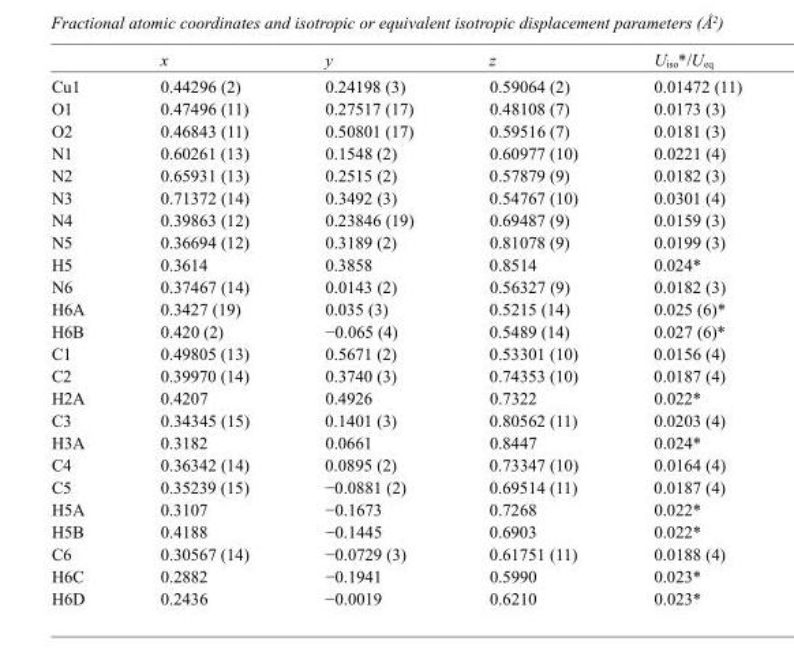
<table><thead><tr><td></td><td>x</td><td>y</td><td>z</td><td>U<sub>iso</sub>*/U<sub>eq</sub></td></tr></thead><tbody><tr><td>Cu1</td><td>0.44296 (2)</td><td>0.24198 (3)</td><td>0.59064 (2)</td><td>0.01472 (11)</td></tr><tr><td>O1</td><td>0.47496 (11)</td><td>0.27517 (17)</td><td>0.48108 (7)</td><td>0.0173 (3)</td></tr><tr><td>O2</td><td>0.46843 (11)</td><td>0.50801 (17)</td><td>0.59516 (7)</td><td>0.0181 (3)</td></tr><tr><td>N1</td><td>0.60261 (13)</td><td>0.1548 (2)</td><td>0.60977 (10)</td><td>0.0221 (4)</td></tr><tr><td>N2</td><td>0.65931 (13)</td><td>0.2515 (2)</td><td>0.57879 (9)</td><td>0.0182 (3)</td></tr><tr><td>N3</td><td>0.71372 (14)</td><td>0.3492 (3)</td><td>0.54767 (10)</td><td>0.0301 (4)</td></tr><tr><td>N4</td><td>0.39863 (12)</td><td>0.23846 (19)</td><td>0.69487 (9)</td><td>0.0159 (3)</td></tr><tr><td>N5</td><td>0.36694 (12)</td><td>0.3189 (2)</td><td>0.81078 (9)</td><td>0.0199 (3)</td></tr><tr><td>H5</td><td>0.3614</td><td>0.3858</td><td>0.8514</td><td>0.024*</td></tr><tr><td>N6</td><td>0.37467 (14)</td><td>0.0143 (2)</td><td>0.56327 (9)</td><td>0.0182 (3)</td></tr><tr><td>H6A</td><td>0.3427 (19)</td><td>0.035 (3)</td><td>0.5215 (14)</td><td>0.025 (6)*</td></tr><tr><td>H6B</td><td>0.420 (2)</td><td>−0.065 (4)</td><td>0.5489 (14)</td><td>0.027 (6)*</td></tr><tr><td>C1</td><td>0.49805 (13)</td><td>0.5671 (2)</td><td>0.53301 (10)</td><td>0.0156 (4)</td></tr><tr><td>C2</td><td>0.39970 (14)</td><td>0.3740 (3)</td><td>0.74353 (10)</td><td>0.0187 (4)</td></tr><tr><td>H2A</td><td>0.4207</td><td>0.4926</td><td>0.7322</td><td>0.022*</td></tr><tr><td>C3</td><td>0.34345 (15)</td><td>0.1401 (3)</td><td>0.80562 (11)</td><td>0.0203 (4)</td></tr><tr><td>H3A</td><td>0.3182</td><td>0.0661</td><td>0.8447</td><td>0.024*</td></tr><tr><td>C4</td><td>0.36342 (14)</td><td>0.0895 (2)</td><td>0.73347 (10)</td><td>0.0164 (4)</td></tr><tr><td>C5</td><td>0.35239 (15)</td><td>−0.0881 (2)</td><td>0.69514 (11)</td><td>0.0187 (4)</td></tr><tr><td>H5A</td><td>0.3107</td><td>−0.1673</td><td>0.7268</td><td>0.022*</td></tr><tr><td>H5B</td><td>0.4188</td><td>−0.1445</td><td>0.6903</td><td>0.022*</td></tr><tr><td>C6</td><td>0.30567 (14)</td><td>−0.0729 (3)</td><td>0.61751 (11)</td><td>0.0188 (4)</td></tr><tr><td>H6C</td><td>0.2882</td><td>−0.1941</td><td>0.5990</td><td>0.023*</td></tr><tr><td>H6D</td><td>0.2436</td><td>−0.0019</td><td>0.6210</td><td>0.023*</td></tr></tbody></table>